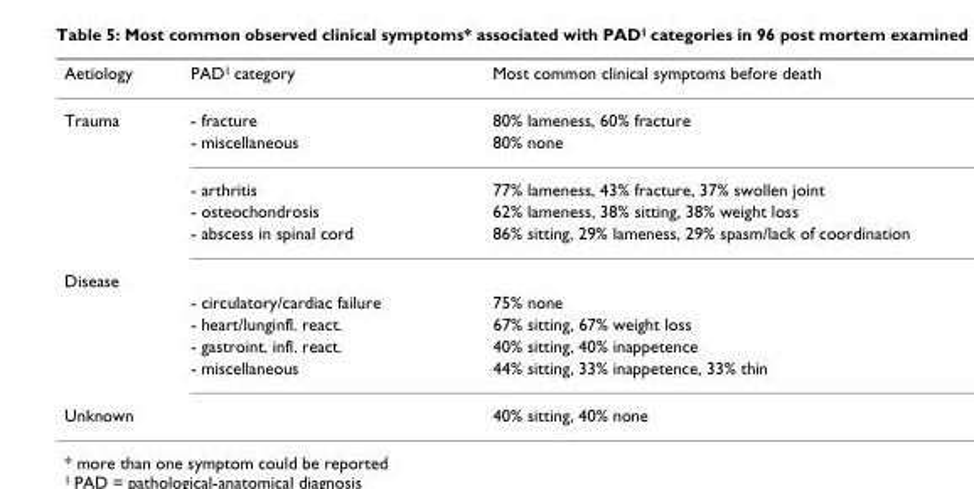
<table><thead><tr><td>Aetiology</td><td>PAD<sup>1</sup> category</td><td>Most common clinical symptoms before death</td></tr></thead><tbody><tr><td rowspan="5">Trauma</td><td>- fracture</td><td>80% lameness, 60% fracture</td></tr><tr><td>- miscellaneous</td><td>80% none</td></tr><tr><td>- arthritis</td><td>77% lameness, 43% fracture, 37% swollen joint</td></tr><tr><td>- osteochondrosis</td><td>62% lameness, 38% sitting, 38% weight loss</td></tr><tr><td>- abscess in spinal cord</td><td>86% sitting, 29% lameness, 29% spasm/lack of coordination</td></tr><tr><td colspan="3">Disease</td></tr><tr><td></td><td>- circulatory/cardiac failure</td><td>75% none</td></tr><tr><td></td><td>- heart/lunginfl. react.</td><td>67% sitting, 67% weight loss</td></tr><tr><td></td><td>- gastroint. infl. react.</td><td>40% sitting, 40% inappetence</td></tr><tr><td></td><td>- miscellaneous</td><td>44% sitting, 33% inappetence, 33% thin</td></tr><tr><td>Unknown</td><td></td><td>40% sitting, 40% none</td></tr></tbody></table>